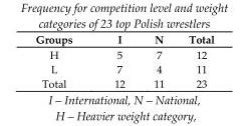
<table><thead><tr><td>Groups</td><td>I</td><td>N</td><td>Total</td></tr></thead><tbody><tr><td>H</td><td>5</td><td>7</td><td>12</td></tr><tr><td>L</td><td>7</td><td>4</td><td>11</td></tr><tr><td>Total</td><td>12</td><td>11</td><td>23</td></tr></tbody></table>